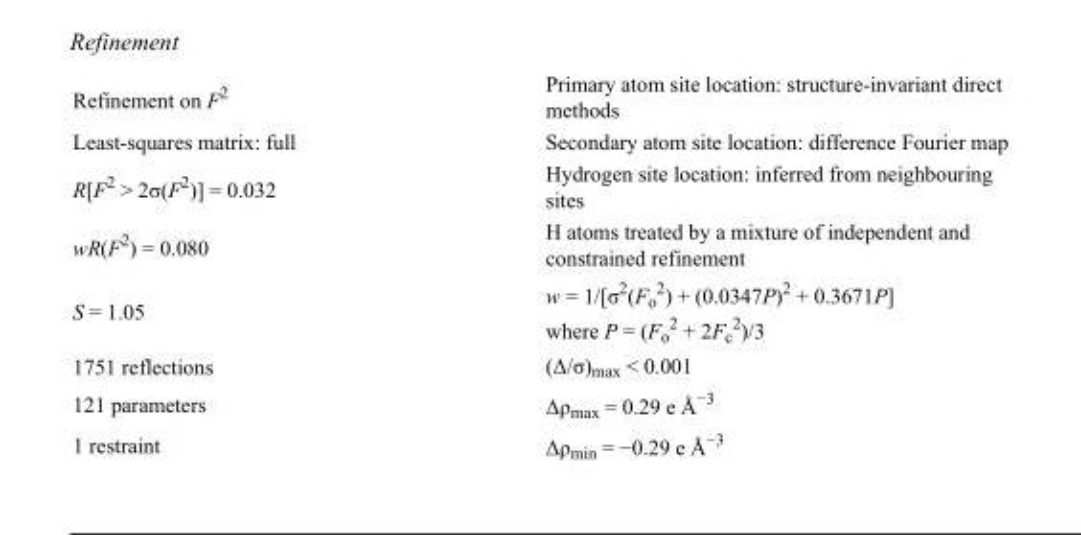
<table><tbody><tr><td>Refinement on F<sup>2</sup></td><td>Primary atom site location: structure-invariant direct methods</td></tr><tr><td>Least-squares matrix: full</td><td>Secondary atom site location: difference Fourier map</td></tr><tr><td>R[F<sup>2</sup> &gt; 2σ(F<sup>2</sup>)] = 0.032</td><td>Hydrogen site location: inferred from neighbouring sites</td></tr><tr><td>wR(F<sup>2</sup>) = 0.080</td><td>H atoms treated by a mixture of independent and constrained refinement</td></tr><tr><td>S = 1.05</td><td>w = 1/[σ<sup>2</sup>(F<sub>o</sub> <sup>2</sup>) + (0.0347P)<sup>2</sup> + 0.3671P] where P = (F<sub>o</sub> <sup>2</sup> + 2F<sub>c</sub> <sup>2</sup>)/3</td></tr><tr><td>1751 reflections</td><td>(Δ/σ)<sub>max</sub> &lt; 0.001</td></tr><tr><td>121 parameters</td><td>Δρ<sub>max</sub> = 0.29 e Å<sup>−3</sup></td></tr><tr><td>1 restraint</td><td>Δρ<sub>min</sub> = −0.29 e Å<sup>−3</sup></td></tr></tbody></table>